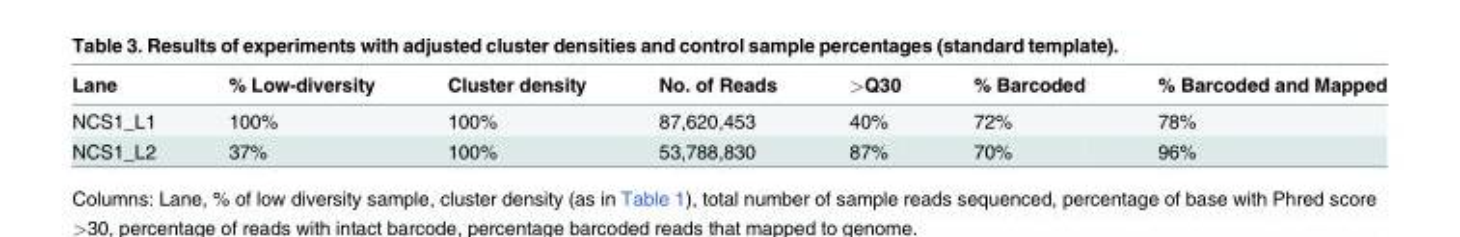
<table><thead><tr><td>Lane</td><td>% Low-diversity</td><td>Cluster density</td><td>No. of Reads</td><td>&gt;Q30</td><td>% Barcoded</td><td>% Barcoded and Mapped</td></tr></thead><tbody><tr><td>NCS1_L1</td><td>100%</td><td>100%</td><td>87,620,453</td><td>40%</td><td>72%</td><td>78%</td></tr><tr><td>NCS1_L2</td><td>37%</td><td>100%</td><td>53,788,830</td><td>87%</td><td>70%</td><td>96%</td></tr></tbody></table>